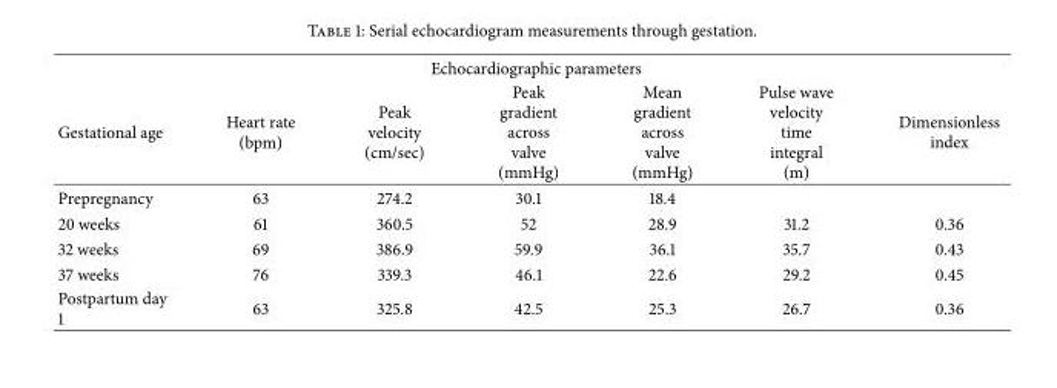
<table><thead><tr><td colspan="7">Echocardiographic parameters</td></tr><tr><td>Gestational age</td><td>Heart rate (bpm)</td><td>Peak velocity (cm/sec)</td><td>Peak gradient across valve (mmHg)</td><td>Mean gradient across valve (mmHg)</td><td>Pulse wave velocity time integral (m)</td><td>Dimensionless index</td></tr></thead><tbody><tr><td>Prepregnancy</td><td>63</td><td>274.2</td><td>30.1</td><td>18.4</td><td></td><td></td></tr><tr><td>20 weeks</td><td>61</td><td>360.5</td><td>52</td><td>28.9</td><td>31.2</td><td>0.36</td></tr><tr><td>32 weeks</td><td>69</td><td>386.9</td><td>59.9</td><td>36.1</td><td>35.7</td><td>0.43</td></tr><tr><td>37 weeks</td><td>76</td><td>339.3</td><td>46.1</td><td>22.6</td><td>29.2</td><td>0.45</td></tr><tr><td>Postpartum day 1</td><td>63</td><td>325.8</td><td>42.5</td><td>25.3</td><td>26.7</td><td>0.36</td></tr></tbody></table>